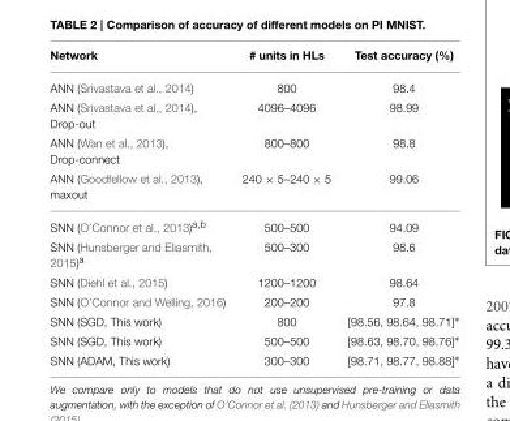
<table><thead><tr><td>Network</td><td># units in HLs</td><td>Test accuracy (%)</td></tr></thead><tbody><tr><td>ANN (Srivastava et al., 2014)</td><td>800</td><td>98.4</td></tr><tr><td>ANN (Srivastava et al., 2014), Drop-out</td><td>4096–4096</td><td>98.99</td></tr><tr><td>ANN (Wan et al., 2013), Drop-connect</td><td>800–800</td><td>98.8</td></tr><tr><td>ANN (Goodfellow et al., 2013), maxout</td><td>240 × 5–240 × 5</td><td>99.06</td></tr><tr><td>SNN (O’Connor et al., 2013)<sup>a,b</sup></td><td>500–500</td><td>94.09</td></tr><tr><td>SNN (Hunsberger and Eliasmith, 2015)<sup>a</sup></td><td>500–300</td><td>98.6</td></tr><tr><td>SNN (Diehl et al., 2015)</td><td>1200–1200</td><td>98.64</td></tr><tr><td>SNN (O’Connor and Welling, 2016)</td><td>200–200</td><td>97.8</td></tr><tr><td>SNN (SGD, This work)</td><td>800</td><td>[98.56, 98.64, 98.71]∗</td></tr><tr><td>SNN (SGD, This work)</td><td>500–500</td><td>[98.63, 98.70, 98.76]∗</td></tr><tr><td>SNN (ADAM, This work)</td><td>300–300</td><td>[98.71, 98.77, 98.88]∗</td></tr></tbody></table>